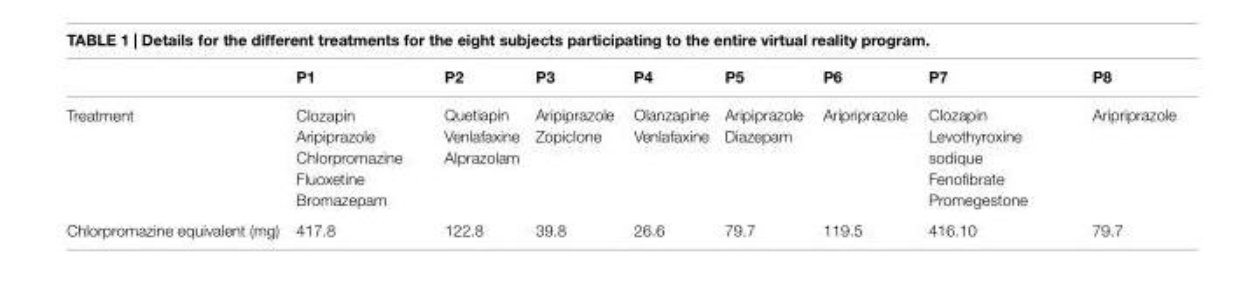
<table><thead><tr><td></td><td>P1</td><td>P2</td><td>P3</td><td>P4</td><td>P5</td><td>P6</td><td>P7</td><td>P8</td></tr></thead><tbody><tr><td>Treatment</td><td>Clozapin Aripiprazole Chlorpromazine Fluoxetine Bromazepam</td><td>Quetiapin Venlafaxine Alprazolam</td><td>Aripiprazole Zopiclone</td><td>Olanzapine Venlafaxine</td><td>Aripiprazole Diazepam</td><td>Aripriprazole</td><td>Clozapin Levothyroxine sodique Fenofibrate Promegestone</td><td>Aripriprazole</td></tr><tr><td>Chlorpromazine equivalent (mg)</td><td>417.8</td><td>122.8</td><td>39.8</td><td>26.6</td><td>79.7</td><td>119.5</td><td>416.10</td><td>79.7</td></tr></tbody></table>